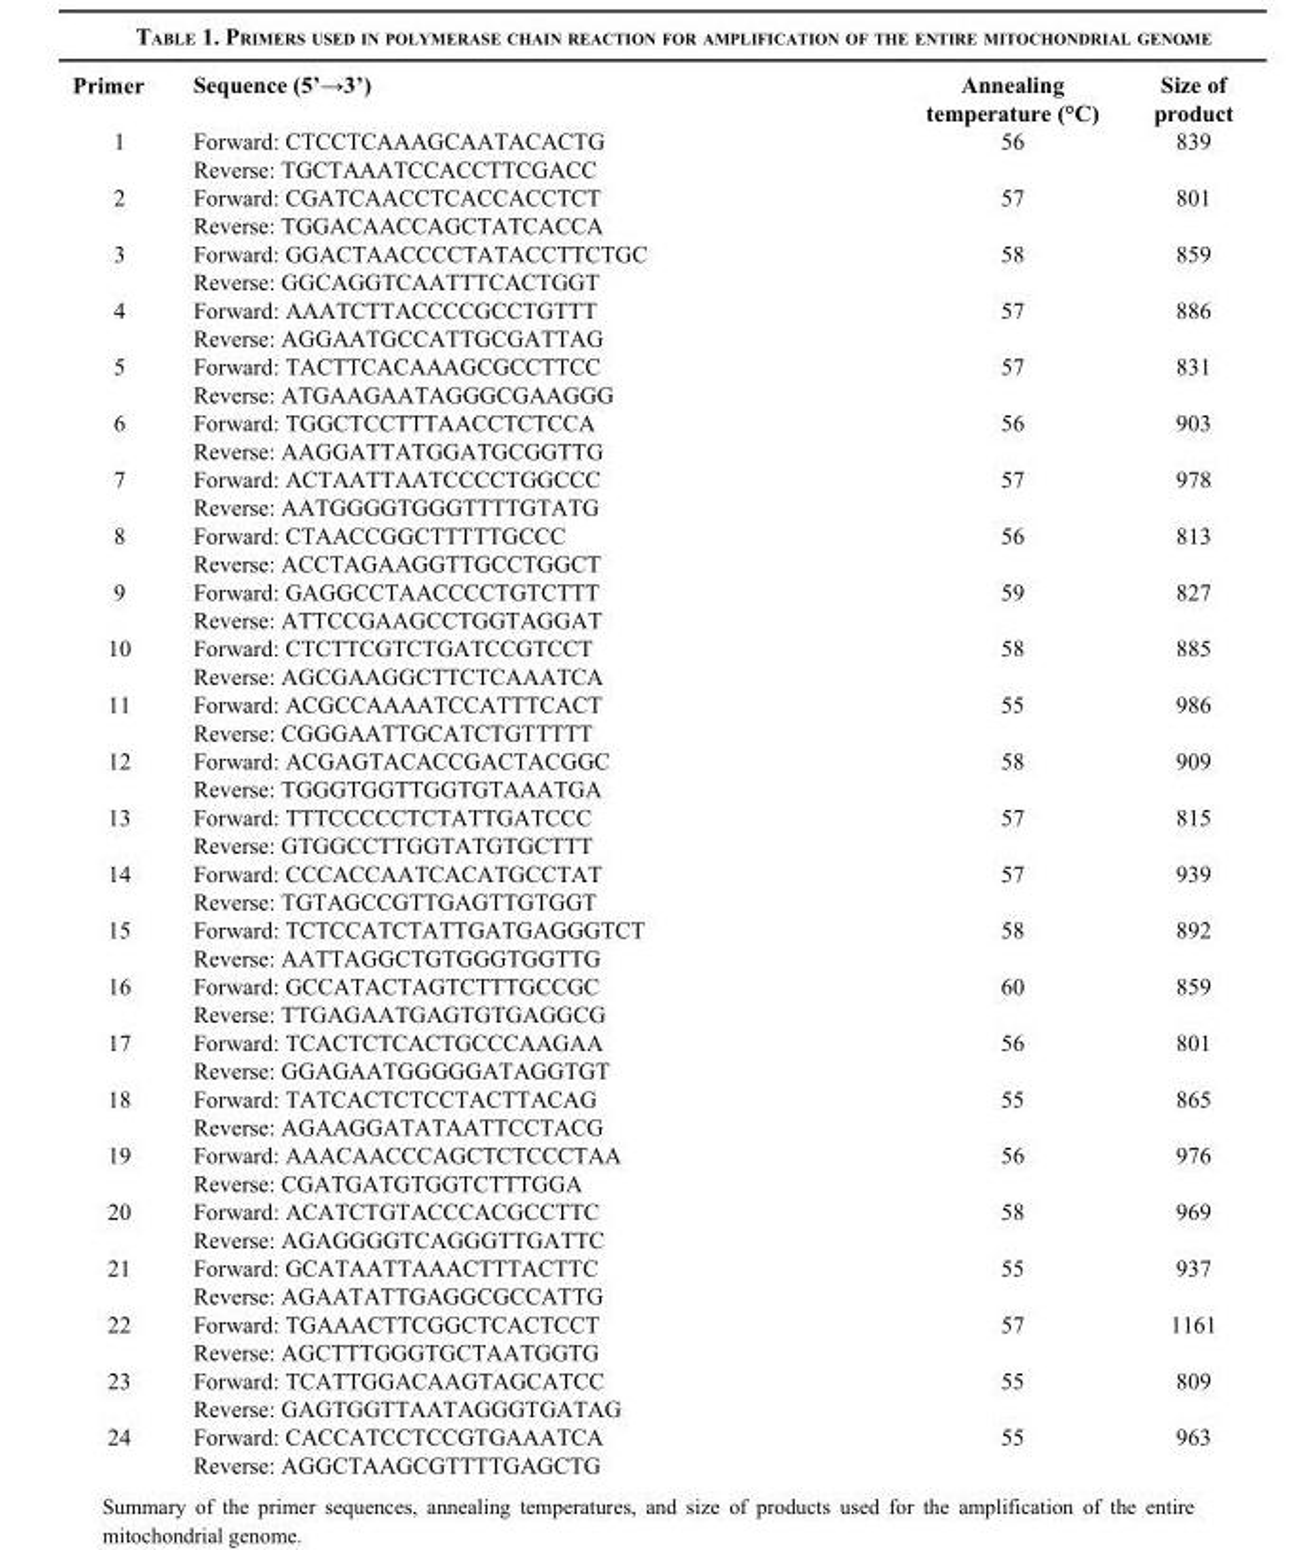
<table><thead><tr><td>Primer</td><td>Sequence (5’→3’)</td><td>Annealing temperature (°C)</td><td>Size of product</td></tr></thead><tbody><tr><td rowspan="2">1</td><td>Forward: CTCCTCAAAGCAATACACTG</td><td>56</td><td>839</td></tr><tr><td>Reverse: TGCTAAATCCACCTTCGACC</td><td></td><td></td></tr><tr><td rowspan="2">2</td><td>Forward: CGATCAACCTCACCACCTCT</td><td>57</td><td>801</td></tr><tr><td>Reverse: TGGACAACCAGCTATCACCA</td><td></td><td></td></tr><tr><td rowspan="2">3</td><td>Forward: GGACTAACCCCTATACCTTCTGC</td><td>58</td><td>859</td></tr><tr><td>Reverse: GGCAGGTCAATTTCACTGGT</td><td></td><td></td></tr><tr><td rowspan="2">4</td><td>Forward: AAATCTTACCCCGCCTGTTT</td><td>57</td><td>886</td></tr><tr><td>Reverse: AGGAATGCCATTGCGATTAG</td><td></td><td></td></tr><tr><td rowspan="2">5</td><td>Forward: TACTTCACAAAGCGCCTTCC</td><td>57</td><td>831</td></tr><tr><td>Reverse: ATGAAGAATAGGGCGAAGGG</td><td></td><td></td></tr><tr><td rowspan="2">6</td><td>Forward: TGGCTCCTTTAACCTCTCCA</td><td>56</td><td>903</td></tr><tr><td>Reverse: AAGGATTATGGATGCGGTTG</td><td></td><td></td></tr><tr><td rowspan="2">7</td><td>Forward: ACTAATTAATCCCCTGGCCC</td><td>57</td><td>978</td></tr><tr><td>Reverse: AATGGGGTGGGTTTTGTATG</td><td></td><td></td></tr><tr><td rowspan="2">8</td><td>Forward: CTAACCGGCTTTTTGCCC</td><td>56</td><td>813</td></tr><tr><td>Reverse: ACCTAGAAGGTTGCCTGGCT</td><td></td><td></td></tr><tr><td rowspan="2">9</td><td>Forward: GAGGCCTAACCCCTGTCTTT</td><td>59</td><td>827</td></tr><tr><td>Reverse: ATTCCGAAGCCTGGTAGGAT</td><td></td><td></td></tr><tr><td rowspan="2">10</td><td>Forward: CTCTTCGTCTGATCCGTCCT</td><td>58</td><td>885</td></tr><tr><td>Reverse: AGCGAAGGCTTCTCAAATCA</td><td></td><td></td></tr><tr><td rowspan="2">11</td><td>Forward: ACGCCAAAATCCATTTCACT</td><td>55</td><td>986</td></tr><tr><td>Reverse: CGGGAATTGCATCTGTTTTT</td><td></td><td></td></tr><tr><td rowspan="2">12</td><td>Forward: ACGAGTACACCGACTACGGC</td><td>58</td><td>909</td></tr><tr><td>Reverse: TGGGTGGTTGGTGTAAATGA</td><td></td><td></td></tr><tr><td rowspan="2">13</td><td>Forward: TTTCCCCCTCTATTGATCCC</td><td>57</td><td>815</td></tr><tr><td>Reverse: GTGGCCTTGGTATGTGCTTT</td><td></td><td></td></tr><tr><td rowspan="2">14</td><td>Forward: CCCACCAATCACATGCCTAT</td><td>57</td><td>939</td></tr><tr><td>Reverse: TGTAGCCGTTGAGTTGTGGT</td><td></td><td></td></tr><tr><td rowspan="2">15</td><td>Forward: TCTCCATCTATTGATGAGGGTCT</td><td>58</td><td>892</td></tr><tr><td>Reverse: AATTAGGCTGTGGGTGGTTG</td><td></td><td></td></tr><tr><td rowspan="2">16</td><td>Forward: GCCATACTAGTCTTTGCCGC</td><td>60</td><td>859</td></tr><tr><td>Reverse: TTGAGAATGAGTGTGAGGCG</td><td></td><td></td></tr><tr><td rowspan="2">17</td><td>Forward: TCACTCTCACTGCCCAAGAA</td><td>56</td><td>801</td></tr><tr><td>Reverse: GGAGAATGGGGGATAGGTGT</td><td></td><td></td></tr><tr><td rowspan="2">18</td><td>Forward: TATCACTCTCCTACTTACAG</td><td>55</td><td>865</td></tr><tr><td>Reverse: AGAAGGATATAATTCCTACG</td><td></td><td></td></tr><tr><td rowspan="2">19</td><td>Forward: AAACAACCCAGCTCTCCCTAA</td><td>56</td><td>976</td></tr><tr><td>Reverse: CGATGATGTGGTCTTTGGA</td><td></td><td></td></tr><tr><td rowspan="2">20</td><td>Forward: ACATCTGTACCCACGCCTTC</td><td>58</td><td>969</td></tr><tr><td>Reverse: AGAGGGGTCAGGGTTGATTC</td><td></td><td></td></tr><tr><td rowspan="2">21</td><td>Forward: GCATAATTAAACTTTACTTC</td><td>55</td><td>937</td></tr><tr><td>Reverse: AGAATATTGAGGCGCCATTG</td><td></td><td></td></tr><tr><td rowspan="2">22</td><td>Forward: TGAAACTTCGGCTCACTCCT</td><td>57</td><td>1161</td></tr><tr><td>Reverse: AGCTTTGGGTGCTAATGGTG</td><td></td><td></td></tr><tr><td rowspan="2">23</td><td>Forward: TCATTGGACAAGTAGCATCC</td><td>55</td><td>809</td></tr><tr><td>Reverse: GAGTGGTTAATAGGGTGATAG</td><td></td><td></td></tr><tr><td rowspan="2">24</td><td>Forward: CACCATCCTCCGTGAAATCA</td><td>55</td><td>963</td></tr><tr><td>Reverse: AGGCTAAGCGTTTTGAGCTG</td><td></td><td></td></tr></tbody></table>